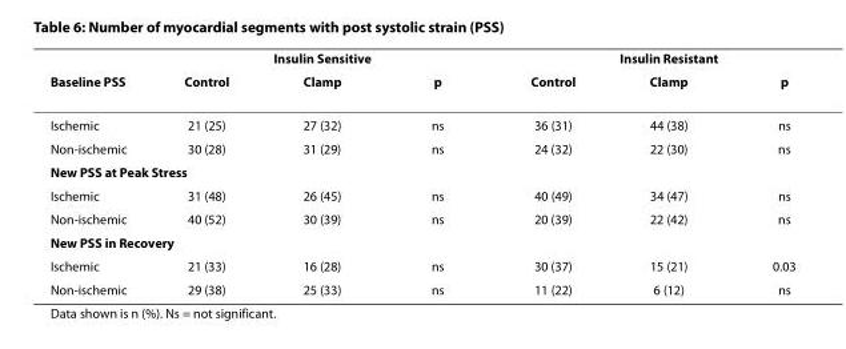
<table><thead><tr><td rowspan="2">Baseline PSS</td><td colspan="3">Insulin Sensitive</td><td colspan="3">Insulin Resistant</td></tr><tr><td>Control</td><td>Clamp</td><td>p</td><td>Control</td><td>Clamp</td><td>p</td></tr></thead><tbody><tr><td>Ischemic</td><td>21 (25)</td><td>27 (32)</td><td>ns</td><td>36 (31)</td><td>44 (38)</td><td>ns</td></tr><tr><td>Non-ischemic</td><td>30 (28)</td><td>31 (29)</td><td>ns</td><td>24 (32)</td><td>22 (30)</td><td>ns</td></tr><tr><td colspan="7">New PSS at Peak Stress</td></tr><tr><td>Ischemic</td><td>31 (48)</td><td>26 (45)</td><td>ns</td><td>40 (49)</td><td>34 (47)</td><td>ns</td></tr><tr><td>Non-ischemic</td><td>40 (52)</td><td>30 (39)</td><td>ns</td><td>20 (39)</td><td>22 (42)</td><td>ns</td></tr><tr><td colspan="7">New PSS in Recovery</td></tr><tr><td>Ischemic</td><td>21 (33)</td><td>16 (28)</td><td>ns</td><td>30 (37)</td><td>15 (21)</td><td>0.03</td></tr><tr><td>Non-ischemic</td><td>29 (38)</td><td>25 (33)</td><td>ns</td><td>11 (22)</td><td>6 (12)</td><td>ns</td></tr></tbody></table>